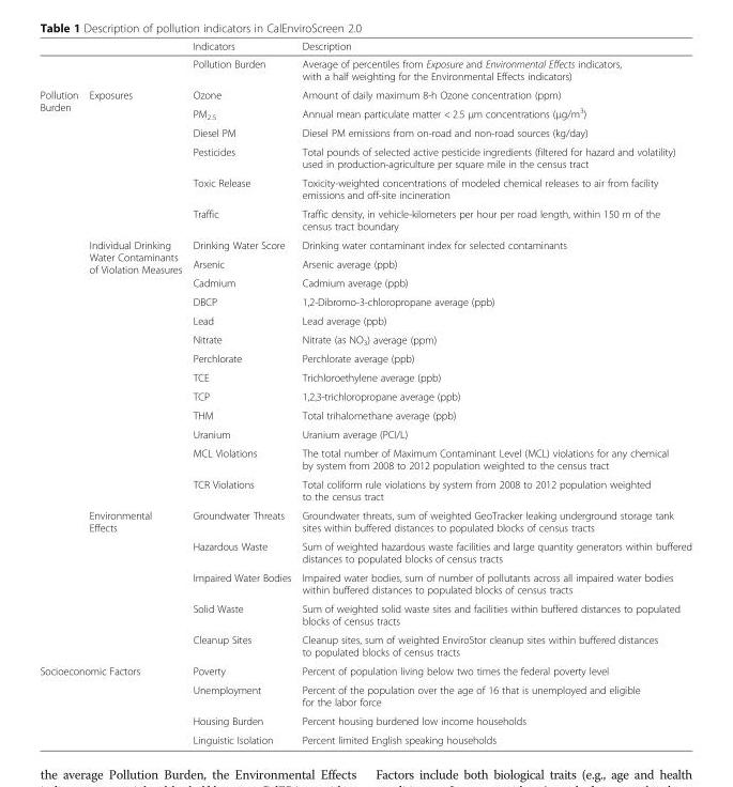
<table><thead><tr><td></td><td></td><td>Indicators</td><td>Description</td></tr></thead><tbody><tr><td colspan="2"></td><td>Pollution Burden</td><td>Average of percentiles from Exposure and Environmental Effects indicators, with a half weighting for the Environmental Effects indicators)</td></tr><tr><td rowspan="24">Pollution Burden</td><td rowspan="6">Exposures</td><td>Ozone</td><td>Amount of daily maximum 8-h Ozone concentration (ppm)</td></tr><tr><td>PM<sub>2.5</sub></td><td>Annual mean particulate matter &lt; 2.5 μm concentrations (μg/m<sup>3</sup>)</td></tr><tr><td>Diesel PM</td><td>Diesel PM emissions from on-road and non-road sources (kg/day)</td></tr><tr><td>Pesticides</td><td>Total pounds of selected active pesticide ingredients (filtered for hazard and volatility) used in production-agriculture per square mile in the census tract</td></tr><tr><td>Toxic Release</td><td>Toxicity-weighted concentrations of modeled chemical releases to air from facility emissions and off-site incineration</td></tr><tr><td>Traffic</td><td>Traffic density, in vehicle-kilometers per hour per road length, within 150 m of the census tract boundary</td></tr><tr><td rowspan="13">Individual Drinking Water Contaminants of Violation Measures</td><td>Drinking Water Score</td><td>Drinking water contaminant index for selected contaminants</td></tr><tr><td>Arsenic</td><td>Arsenic average (ppb)</td></tr><tr><td>Cadmium</td><td>Cadmium average (ppb)</td></tr><tr><td>DBCP</td><td>1,2-Dibromo-3-chloropropane average (ppb)</td></tr><tr><td>Lead</td><td>Lead average (ppb)</td></tr><tr><td>Nitrate</td><td>Nitrate (as NO<sub>3</sub>) average (ppm)</td></tr><tr><td>Perchlorate</td><td>Perchlorate average (ppb)</td></tr><tr><td>TCE</td><td>Trichloroethylene average (ppb)</td></tr><tr><td>TCP</td><td>1,2,3-trichloropropane average (ppb)</td></tr><tr><td>THM</td><td>Total trihalomethane average (ppb)</td></tr><tr><td>Uranium</td><td>Uranium average (PCI/L)</td></tr><tr><td>MCL Violations</td><td>The total number of Maximum Contaminant Level (MCL) violations for any chemical by system from 2008 to 2012 population weighted to the census tract</td></tr><tr><td>TCR Violations</td><td>Total coliform rule violations by system from 2008 to 2012 population weighted to the census tract</td></tr><tr><td rowspan="5">Environmental Effects</td><td>Groundwater Threats</td><td>Groundwater threats, sum of weighted GeoTracker leaking underground storage tank sites within buffered distances to populated blocks of census tracts</td></tr><tr><td>Hazardous Waste</td><td>Sum of weighted hazardous waste facilities and large quantity generators within buffered distances to populated blocks of census tracts</td></tr><tr><td>Impaired Water Bodies</td><td>Impaired water bodies, sum of number of pollutants across all impaired water bodies within buffered distances to populated blocks of census tracts</td></tr><tr><td>Solid Waste</td><td>Sum of weighted solid waste sites and facilities within buffered distances to populated blocks of census tracts</td></tr><tr><td>Cleanup Sites</td><td>Cleanup sites, sum of weighted EnviroStor cleanup sites within buffered distances to populated blocks of census tracts</td></tr><tr><td rowspan="4" colspan="2">Socioeconomic Factors</td><td>Poverty</td><td>Percent of population living below two times the federal poverty level</td></tr><tr><td>Unemployment</td><td>Percent of the population over the age of 16 that is unemployed and eligible for the labor force</td></tr><tr><td>Housing Burden</td><td>Percent housing burdened low income households</td></tr><tr><td>Linguistic Isolation</td><td>Percent limited English speaking households</td></tr></tbody></table>